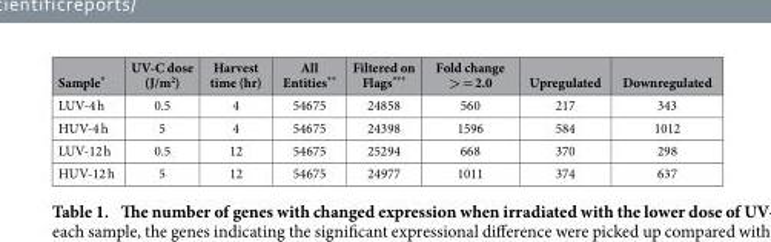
<table><thead><tr><td>Sample*</td><td>UV-C dose (J/m<sup>2</sup>)</td><td>Harvest time (hr)</td><td>All Entities**</td><td>Filtered on Flags***</td><td>Fold change &gt; = 2.0</td><td>Upregulated</td><td>Downregulated</td></tr></thead><tbody><tr><td>LUV-4 h</td><td>0.5</td><td>4</td><td>54675</td><td>24858</td><td>560</td><td>217</td><td>343</td></tr><tr><td>HUV-4 h</td><td>5</td><td>4</td><td>54675</td><td>24398</td><td>1596</td><td>584</td><td>1012</td></tr><tr><td>LUV-12 h</td><td>0.5</td><td>12</td><td>54675</td><td>25294</td><td>668</td><td>370</td><td>298</td></tr><tr><td>HUV-12 h</td><td>5</td><td>12</td><td>54675</td><td>24977</td><td>1011</td><td>374</td><td>637</td></tr></tbody></table>